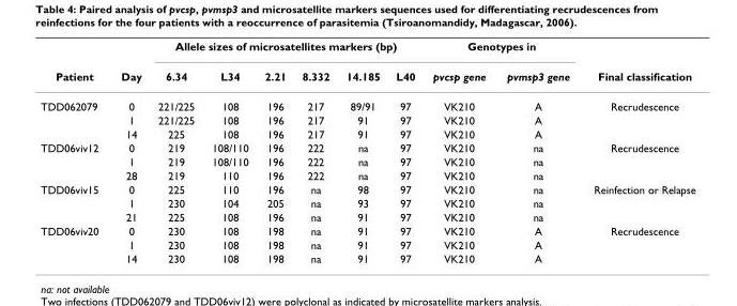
<table><thead><tr><td rowspan="2">Patient</td><td rowspan="2">Day</td><td colspan="6">Allele sizes of microsatellites markers (bp)</td><td colspan="2">Genotypes in</td><td rowspan="2">Final classification</td></tr><tr><td>6.34</td><td>L34</td><td>2.21</td><td>8.332</td><td>14.185</td><td>L40</td><td>pvcsp gene</td><td>pvmsp3 gene</td></tr></thead><tbody><tr><td rowspan="3">TDD062079</td><td>0</td><td>221/225</td><td>108</td><td>196</td><td>217</td><td>89/91</td><td>97</td><td>VK210</td><td>A</td><td>Recrudescence</td></tr><tr><td>1</td><td>221/225</td><td>108</td><td>196</td><td>217</td><td>91</td><td>97</td><td>VK210</td><td>A</td><td></td></tr><tr><td>14</td><td>225</td><td>108</td><td>196</td><td>217</td><td>91</td><td>97</td><td>VK210</td><td>A</td><td></td></tr><tr><td rowspan="3">TDD06viv12</td><td>0</td><td>219</td><td>108/110</td><td>196</td><td>222</td><td>na</td><td>97</td><td>VK210</td><td>na</td><td>Recrudescence</td></tr><tr><td>1</td><td>219</td><td>108/110</td><td>196</td><td>222</td><td>na</td><td>97</td><td>VK210</td><td>na</td><td></td></tr><tr><td>28</td><td>219</td><td>110</td><td>196</td><td>222</td><td>na</td><td>97</td><td>VK210</td><td>na</td><td></td></tr><tr><td rowspan="3">TDD06viv15</td><td>0</td><td>225</td><td>110</td><td>196</td><td>na</td><td>98</td><td>97</td><td>VK210</td><td>na</td><td>Reinfection or Relapse</td></tr><tr><td>1</td><td>230</td><td>104</td><td>205</td><td>na</td><td>93</td><td>97</td><td>VK210</td><td>na</td><td></td></tr><tr><td>21</td><td>225</td><td>108</td><td>196</td><td>na</td><td>91</td><td>97</td><td>VK210</td><td>na</td><td></td></tr><tr><td rowspan="3">TDD06viv20</td><td>0</td><td>230</td><td>108</td><td>198</td><td>na</td><td>91</td><td>97</td><td>VK210</td><td>A</td><td>Recrudescence</td></tr><tr><td>1</td><td>230</td><td>108</td><td>198</td><td>na</td><td>91</td><td>97</td><td>VK210</td><td>A</td><td></td></tr><tr><td>14</td><td>230</td><td>108</td><td>198</td><td>na</td><td>91</td><td>97</td><td>VK210</td><td>A</td><td></td></tr></tbody></table>